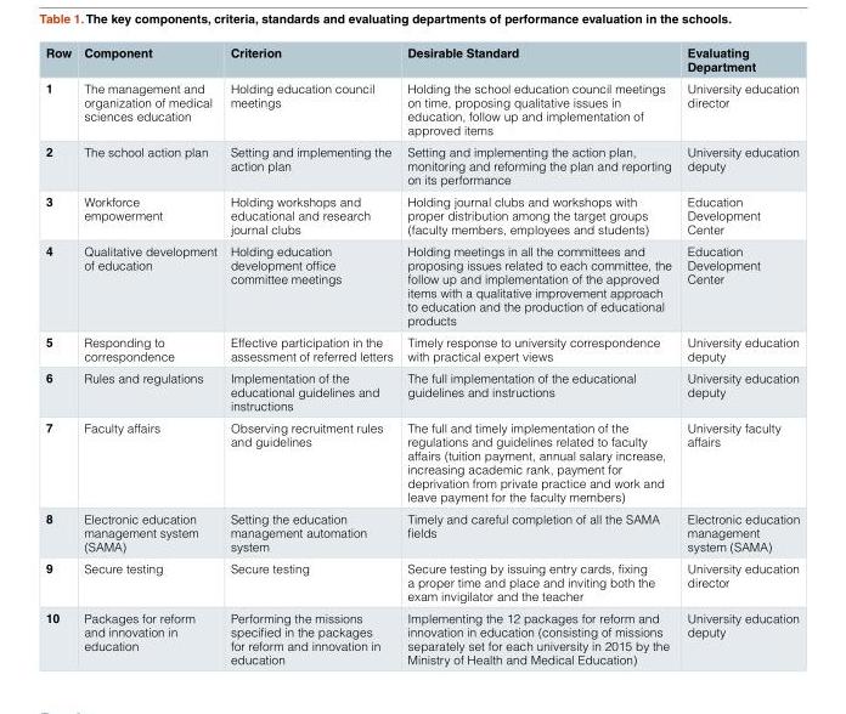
<table><thead><tr><td>Row</td><td>Component</td><td>Criterion</td><td>Desirable Standard</td><td>Evaluating Department</td></tr></thead><tbody><tr><td>1</td><td>The management and organization of medical sciences education</td><td>Holding education council meetings</td><td>Holding the school education council meetings on time, proposing qualitative issues in education, follow up and implementation of approved items</td><td>University education director</td></tr><tr><td>2</td><td>The school action plan</td><td>Setting and implementing the action plan</td><td>Setting and implementing the action plan, monitoring and reforming the plan and reporting on its performance</td><td>University education deputy</td></tr><tr><td>3</td><td>Workforce empowerment</td><td>Holding workshops and educational and research journal clubs</td><td>Holding journal clubs and workshops with proper distribution among the target groups (faculty members, employees and students)</td><td>Education Development Center</td></tr><tr><td>4</td><td>Qualitative development of education</td><td>Holding education development office committee meetings</td><td>Holding meetings in all the committees and proposing issues related to each committee, the follow up and implementation of the approved items with a qualitative improvement approach to education and the production of educational products</td><td>Education Development Center</td></tr><tr><td>5</td><td>Responding to correspondence</td><td>Effective participation in the assessment of referred letters</td><td>Timely response to university correspondence with practical expert views</td><td>University education deputy</td></tr><tr><td>6</td><td>Rules and regulations</td><td>Implementation of the educational guidelines and instructions</td><td>The full implementation of the educational guidelines and instructions</td><td>University education deputy</td></tr><tr><td>7</td><td>Faculty affairs</td><td>Observing recruitment rules and guidelines</td><td>The full and timely implementation of the regulations and guidelines related to faculty affairs (tuition payment, annual salary increase, increasing academic rank, payment for deprivation from private practice and work and leave payment for the faculty members)</td><td>University faculty affairs</td></tr><tr><td>8</td><td>Electronic education management system (SAMA)</td><td>Setting the education management automation system</td><td>Timely and careful completion of all the SAMA fields</td><td>Electronic education management system (SAMA)</td></tr><tr><td>9</td><td>Secure testing</td><td>Secure testing</td><td>Secure testing by issuing entry cards, fixing a proper time and place and inviting both the exam invigilator and the teacher</td><td>University education director</td></tr><tr><td>10</td><td>Packages for reform and innovation in education</td><td>Performing the missions specified in the packages for reform and innovation in education</td><td>Implementing the 12 packages for reform and innovation in education (consisting of missions separately set for each university in 2015 by the Ministry of Health and Medical Education)</td><td>University education deputy</td></tr></tbody></table>